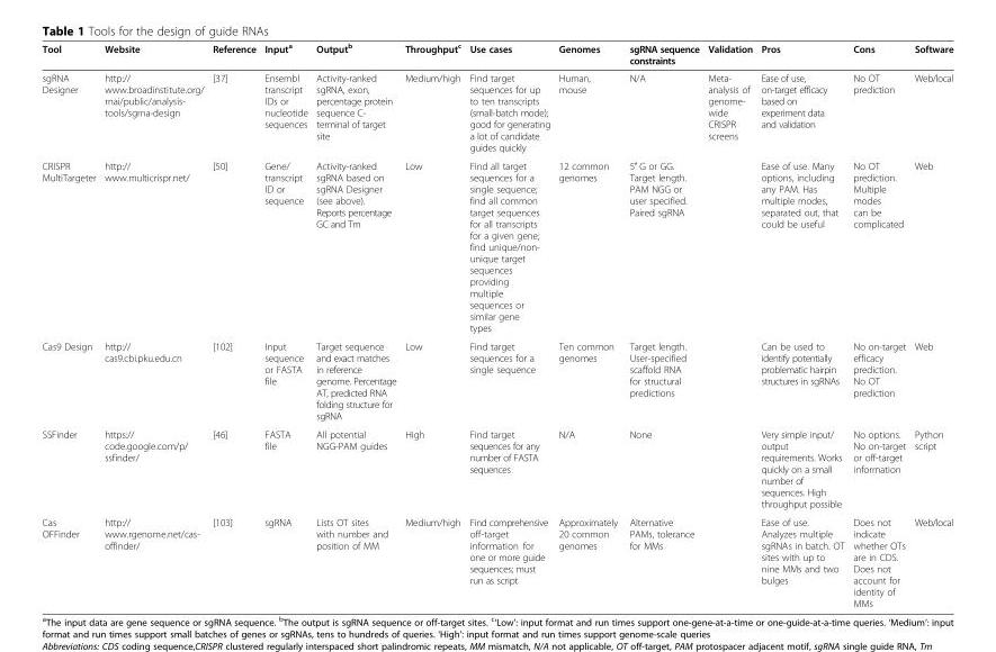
<table><thead><tr><td>Tool</td><td>Website</td><td>Reference</td><td>Input<sup>a</sup></td><td>Output<sup>b</sup></td><td>Throughput<sup>c</sup></td><td>Use cases</td><td>Genomes</td><td>sgRNA sequence constraints</td><td>Validation</td><td>Pros</td><td>Cons</td><td>Software</td></tr></thead><tbody><tr><td>sgRNA Designer</td><td>http:// www.broadinstitute.org/ rnai/public/analysis- tools/sgrna-design</td><td>[37]</td><td>Ensembl transcript IDs or nucleotide sequences</td><td>Activity-ranked sgRNA, exon, percentage protein sequence C- terminal of target site</td><td>Medium/high</td><td>Find target sequences for up to ten transcripts (small-batch mode); good for generating a lot of candidate guides quickly</td><td>Human, mouse</td><td>N/A</td><td>Meta- analysis of genome- wide CRISPR screens</td><td>Ease of use, on-target efficacy based on experiment data and validation</td><td>No OT prediction</td><td>Web/local</td></tr><tr><td>CRISPR MultiTargeter</td><td>http:// www.multicrispr.net/</td><td>[50]</td><td>Gene/ transcript ID or sequence</td><td>Activity-ranked sgRNA based on sgRNA Designer (see above). Reports percentage GC and Tm</td><td>Low</td><td>Find all target sequences for a single sequence; find all common target sequences for all transcripts for a given gene; find unique/non- unique target sequences providing multiple sequences or similar gene types</td><td>12 common genomes</td><td>5′ G or GG. Target length. PAM NGG or user specified. Paired sgRNA</td><td></td><td>Ease of use. Many options, including any PAM. Has multiple modes, separated out, that could be useful</td><td>No OT prediction. Multiple modes can be complicated</td><td>Web</td></tr><tr><td>Cas9 Design</td><td>http:// cas9.cbi.pku.edu.cn</td><td>[102]</td><td>Input sequence or FASTA file</td><td>Target sequence and exact matches in reference genome. Percentage AT, predicted RNA folding structure for sgRNA</td><td>Low</td><td>Find target sequences for a single sequence</td><td>Ten common genomes</td><td>Target length. User-specified scaffold RNA for structural predictions</td><td></td><td>Can be used to identify potentially problematic hairpin structures in sgRNAs</td><td>No on-target efficacy prediction. No OT prediction</td><td>Web</td></tr><tr><td>SSFinder</td><td>https:// code.google.com/p/ ssfinder/</td><td>[46]</td><td>FASTA file</td><td>All potential NGG-PAM guides</td><td>High</td><td>Find target sequences for any number of FASTA sequences</td><td>N/A</td><td>None</td><td></td><td>Very simple input/ output requirements. Works quickly on a small number of sequences. High throughput possible</td><td>No options. No on-target or off-target information</td><td>Python script</td></tr><tr><td>Cas OFFinder</td><td>http:// www.rgenome.net/cas- offinder/</td><td>[103]</td><td>sgRNA</td><td>Lists OT sites with number and position of MM</td><td>Medium/high</td><td>Find comprehensive off-target information for one or more guide sequences; must run as script</td><td>Approximately 20 common genomes</td><td>Alternative PAMs, tolerance for MMs</td><td></td><td>Ease of use. Analyzes multiple sgRNAs in batch. OT sites with up to nine MMs and two bulges</td><td>Does not indicate whether OTs are in CDS. Does not account for identity of MMs</td><td>Web/local</td></tr></tbody></table>